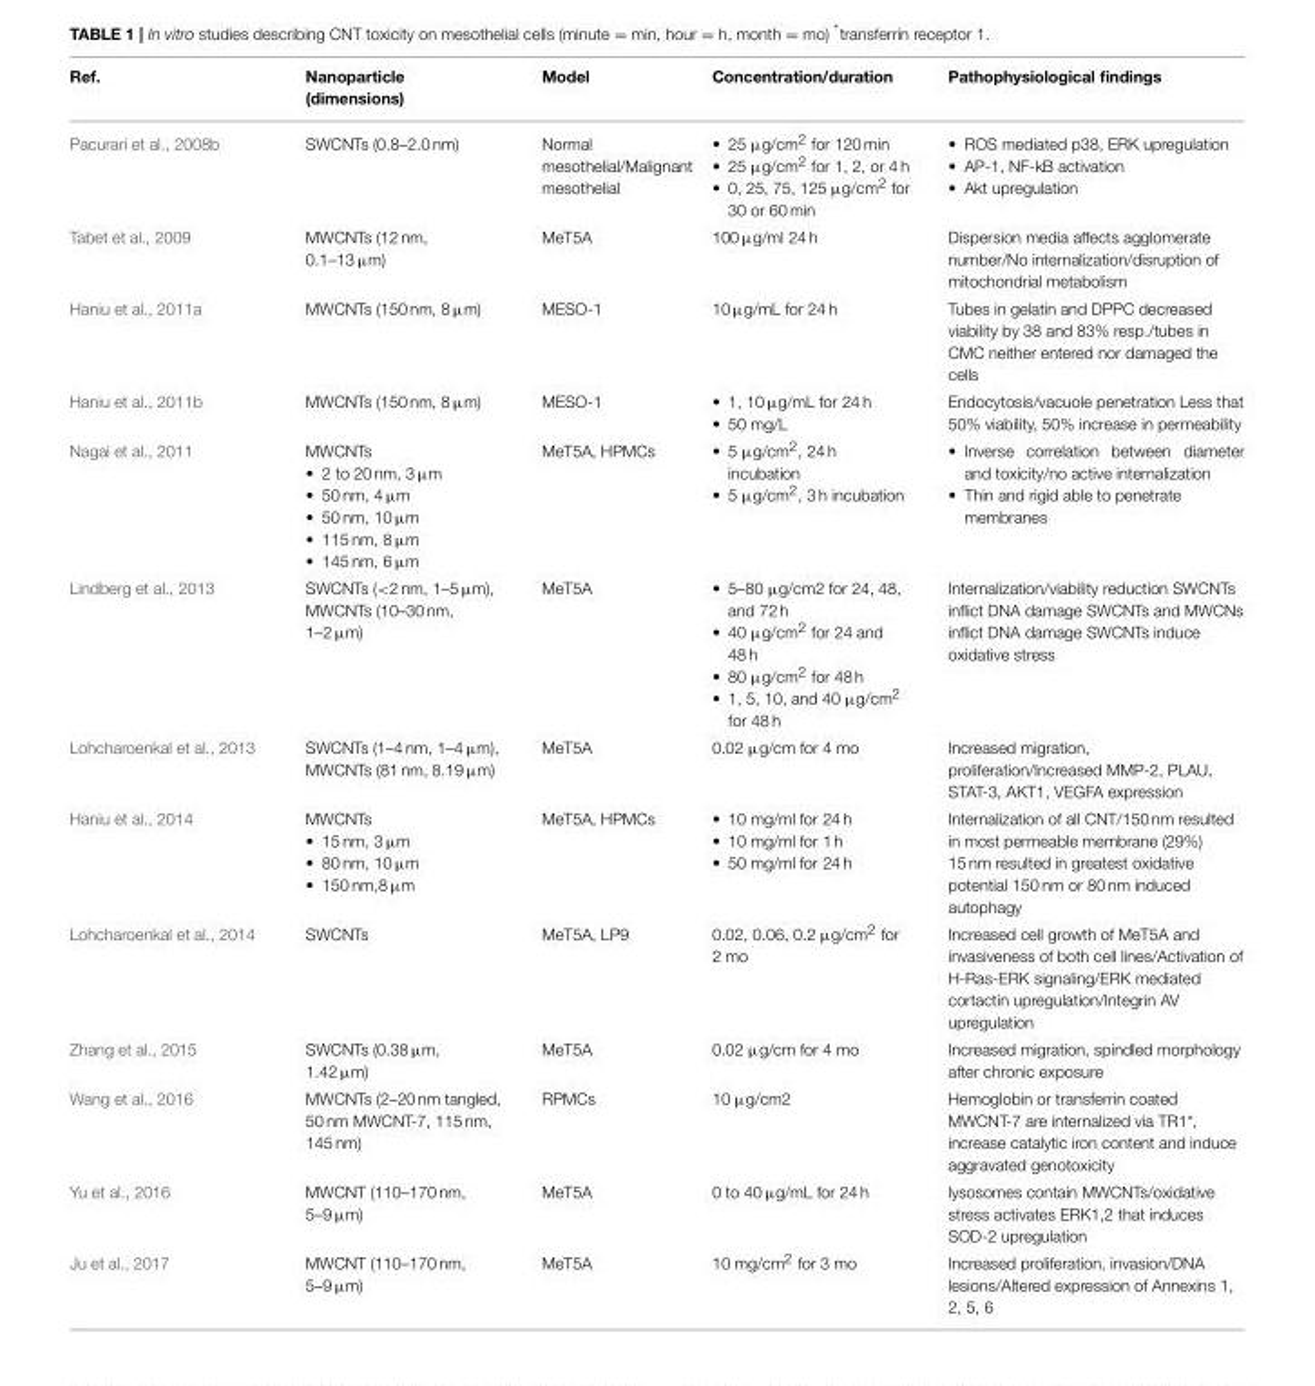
<table><thead><tr><td>Ref.</td><td>Nanoparticle (dimensions)</td><td>Model</td><td>Concentration/duration</td><td>Pathophysiological findings</td></tr></thead><tbody><tr><td>Pacurari et al., 2008b</td><td>SWCNTs (0.8–2.0 nm)</td><td>Normal mesothelial/Malignant mesothelial</td><td>• 25 µg/cm2 for 120 min • 25 µg/cm2 for 1, 2, or 4 h • 0, 25, 75, 125 µg/cm2 for 30 or 60 min</td><td>• ROS mediated p38, ERK upregulation • AP-1, NF-kB activation • Akt upregulation</td></tr><tr><td>Tabet et al., 2009</td><td>MWCNTs (12 nm, 0.1–13 µm)</td><td>MeT5A</td><td>100 µg/ml 24 h</td><td>Dispersion media affects agglomerate number/No internalization/disruption of mitochondrial metabolism</td></tr><tr><td>Haniu et al., 2011a</td><td>MWCNTs (150 nm, 8 µm)</td><td>MESO-1</td><td>10 µg/mL for 24 h</td><td>Tubes in gelatin and DPPC decreased viability by 38 and 83% resp./tubes in CMC neither entered nor damaged the cells</td></tr><tr><td>Haniu et al., 2011b</td><td>MWCNTs (150 nm, 8 µm)</td><td>MESO-1</td><td>• 1, 10 µg/mL for 24 h • 50 mg/L</td><td>Endocytosis/vacuole penetration Less that 50% viability, 50% increase in permeability</td></tr><tr><td>Nagai et al., 2011</td><td>MWCNTs • 2 to 20 nm, 3 µm • 50 nm, 4 µm • 50 nm, 10 µm • 115 nm, 8 µm • 145 nm, 6 µm</td><td>MeT5A, HPMCs</td><td>• 5 µg/cm2, 24 h incubation • 5 µg/cm2, 3 h incubation</td><td>• Inverse correlation between diameter and toxicity/no active internalization • Thin and rigid able to penetrate membranes</td></tr><tr><td>Lindberg et al., 2013</td><td>SWCNTs (&lt;2 nm, 1–5 µm), MWCNTs (10–30 nm, 1–2 µm)</td><td>MeT5A</td><td>• 5–80 µg/cm2 for 24, 48, and 72 h • 40 µg/cm2 for 24 and 48 h • 80 µg/cm2 for 48 h • 1, 5, 10, and 40 µg/cm2 for 48 h</td><td>Internalization/viability reduction SWCNTs inflict DNA damage SWCNTs and MWCNs inflict DNA damage SWCNTs induce oxidative stress</td></tr><tr><td>Lohcharoenkal et al., 2013</td><td>SWCNTs (1–4 nm, 1–4 µm), MWCNTs (81 nm, 8.19 µm)</td><td>MeT5A</td><td>0.02 µg/cm for 4 mo</td><td>Increased migration, proliferation/Increased MMP-2, PLAU, STAT-3, AKT1, VEGFA expression</td></tr><tr><td>Haniu et al., 2014</td><td>MWCNTs • 15 nm, 3 µm • 80 nm, 10 µm • 150 nm,8 µm</td><td>MeT5A, HPMCs</td><td>• 10 mg/ml for 24 h • 10 mg/ml for 1 h • 50 mg/ml for 24 h</td><td>Internalization of all CNT/150 nm resulted in most permeable membrane (29%) 15 nm resulted in greatest oxidative potential 150 nm or 80 nm induced autophagy</td></tr><tr><td>Lohcharoenkal et al., 2014</td><td>SWCNTs</td><td>MeT5A, LP9</td><td>0.02, 0.06, 0.2 µg/cm<sup>2</sup> for 2 mo</td><td>Increased cell growth of MeT5A and invasiveness of both cell lines/Activation of H-Ras-ERK signaling/ERK mediated cortactin upregulation/Integrin AV upregulation</td></tr><tr><td>Zhang et al., 2015</td><td>SWCNTs (0.38 µm, 1.42 µm)</td><td>MeT5A</td><td>0.02 µg/cm for 4 mo</td><td>Increased migration, spindled morphology after chronic exposure</td></tr><tr><td>Wang et al., 2016</td><td>MWCNTs (2–20 nm tangled, 50 nm MWCNT-7, 115 nm, 145 nm)</td><td>RPMCs</td><td>10 µg/cm2</td><td>Hemoglobin or transferrin coated MWCNT-7 are internalized via TR1*, increase catalytic iron content and induce aggravated genotoxicity</td></tr><tr><td>Yu et al., 2016</td><td>MWCNT (110–170 nm, 5–9 µm)</td><td>MeT5A</td><td>0 to 40 µg/mL for 24 h</td><td>lysosomes contain MWCNTs/oxidative stress activates ERK1,2 that induces SOD-2 upregulation</td></tr><tr><td>Ju et al., 2017</td><td>MWCNT (110–170 nm, 5–9 µm)</td><td>MeT5A</td><td>10 mg/cm<sup>2</sup> for 3 mo</td><td>Increased proliferation, invasion/DNA lesions/Altered expression of Annexins 1, 2, 5, 6</td></tr></tbody></table>